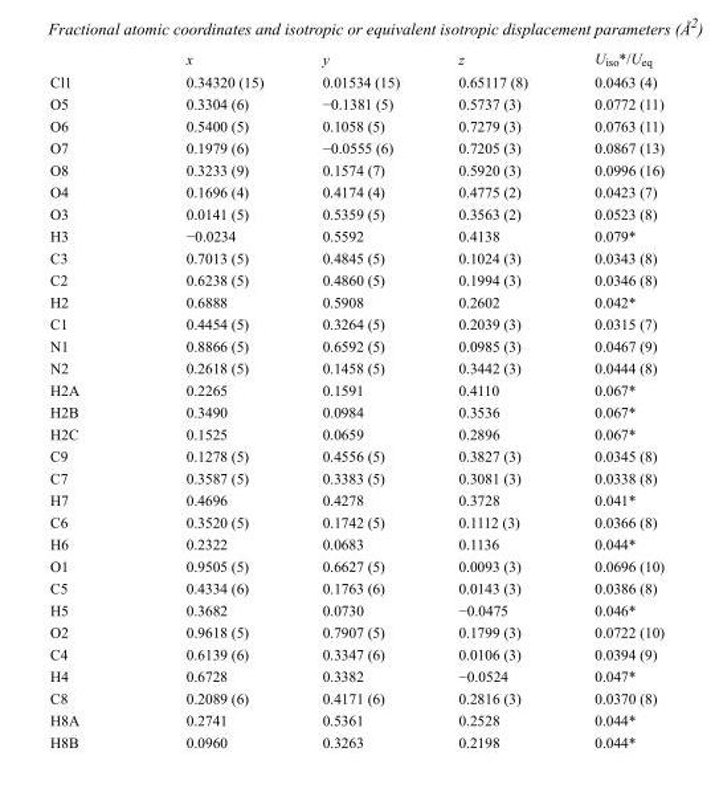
<table><thead><tr><td></td><td>x</td><td>y</td><td>z</td><td>U<sub>iso</sub>*/U<sub>eq</sub></td></tr></thead><tbody><tr><td>Cl1</td><td>0.34320 (15)</td><td>0.01534 (15)</td><td>0.65117 (8)</td><td>0.0463 (4)</td></tr><tr><td>O5</td><td>0.3304 (6)</td><td>−0.1381 (5)</td><td>0.5737 (3)</td><td>0.0772 (11)</td></tr><tr><td>O6</td><td>0.5400 (5)</td><td>0.1058 (5)</td><td>0.7279 (3)</td><td>0.0763 (11)</td></tr><tr><td>O7</td><td>0.1979 (6)</td><td>−0.0555 (6)</td><td>0.7205 (3)</td><td>0.0867 (13)</td></tr><tr><td>O8</td><td>0.3233 (9)</td><td>0.1574 (7)</td><td>0.5920 (3)</td><td>0.0996 (16)</td></tr><tr><td>O4</td><td>0.1696 (4)</td><td>0.4174 (4)</td><td>0.4775 (2)</td><td>0.0423 (7)</td></tr><tr><td>O3</td><td>0.0141 (5)</td><td>0.5359 (5)</td><td>0.3563 (2)</td><td>0.0523 (8)</td></tr><tr><td>H3</td><td>−0.0234</td><td>0.5592</td><td>0.4138</td><td>0.079*</td></tr><tr><td>C3</td><td>0.7013 (5)</td><td>0.4845 (5)</td><td>0.1024 (3)</td><td>0.0343 (8)</td></tr><tr><td>C2</td><td>0.6238 (5)</td><td>0.4860 (5)</td><td>0.1994 (3)</td><td>0.0346 (8)</td></tr><tr><td>H2</td><td>0.6888</td><td>0.5908</td><td>0.2602</td><td>0.042*</td></tr><tr><td>C1</td><td>0.4454 (5)</td><td>0.3264 (5)</td><td>0.2039 (3)</td><td>0.0315 (7)</td></tr><tr><td>N1</td><td>0.8866 (5)</td><td>0.6592 (5)</td><td>0.0985 (3)</td><td>0.0467 (9)</td></tr><tr><td>N2</td><td>0.2618 (5)</td><td>0.1458 (5)</td><td>0.3442 (3)</td><td>0.0444 (8)</td></tr><tr><td>H2A</td><td>0.2265</td><td>0.1591</td><td>0.4110</td><td>0.067*</td></tr><tr><td>H2B</td><td>0.3490</td><td>0.0984</td><td>0.3536</td><td>0.067*</td></tr><tr><td>H2C</td><td>0.1525</td><td>0.0659</td><td>0.2896</td><td>0.067*</td></tr><tr><td>C9</td><td>0.1278 (5)</td><td>0.4556 (5)</td><td>0.3827 (3)</td><td>0.0345 (8)</td></tr><tr><td>C7</td><td>0.3587 (5)</td><td>0.3383 (5)</td><td>0.3081 (3)</td><td>0.0338 (8)</td></tr><tr><td>H7</td><td>0.4696</td><td>0.4278</td><td>0.3728</td><td>0.041*</td></tr><tr><td>C6</td><td>0.3520 (5)</td><td>0.1742 (5)</td><td>0.1112 (3)</td><td>0.0366 (8)</td></tr><tr><td>H6</td><td>0.2322</td><td>0.0683</td><td>0.1136</td><td>0.044*</td></tr><tr><td>O1</td><td>0.9505 (5)</td><td>0.6627 (5)</td><td>0.0093 (3)</td><td>0.0696 (10)</td></tr><tr><td>C5</td><td>0.4334 (6)</td><td>0.1763 (6)</td><td>0.0143 (3)</td><td>0.0386 (8)</td></tr><tr><td>H5</td><td>0.3682</td><td>0.0730</td><td>−0.0475</td><td>0.046*</td></tr><tr><td>O2</td><td>0.9618 (5)</td><td>0.7907 (5)</td><td>0.1799 (3)</td><td>0.0722 (10)</td></tr><tr><td>C4</td><td>0.6139 (6)</td><td>0.3347 (6)</td><td>0.0106 (3)</td><td>0.0394 (9)</td></tr><tr><td>H4</td><td>0.6728</td><td>0.3382</td><td>−0.0524</td><td>0.047*</td></tr><tr><td>C8</td><td>0.2089 (6)</td><td>0.4171 (6)</td><td>0.2816 (3)</td><td>0.0370 (8)</td></tr><tr><td>H8A</td><td>0.2741</td><td>0.5361</td><td>0.2528</td><td>0.044*</td></tr><tr><td>H8B</td><td>0.0960</td><td>0.3263</td><td>0.2198</td><td>0.044*</td></tr></tbody></table>